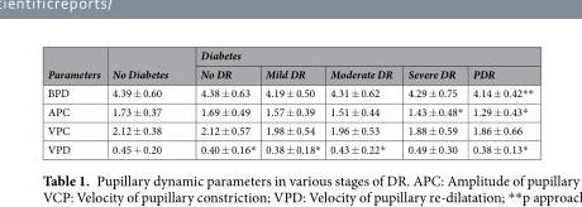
<table><thead><tr><td rowspan="2">Parameters</td><td rowspan="2">No Diabetes</td><td colspan="5">Diabetes</td></tr><tr><td>No DR</td><td>Mild DR</td><td>Moderate DR</td><td>Severe DR</td><td>PDR</td></tr></thead><tbody><tr><td>BPD</td><td>4.39 ± 0.60</td><td>4.38 ± 0.63</td><td>4.19 ± 0.50</td><td>4.31 ± 0.62</td><td>4.29 ± 0.75</td><td>4.14 ± 0.42**</td></tr><tr><td>APC</td><td>1.73 ± 0.37</td><td>1.69 ± 0.49</td><td>1.57 ± 0.39</td><td>1.51 ± 0.44</td><td>1.43 ± 0.48*</td><td>1.29 ± 0.43*</td></tr><tr><td>VPC</td><td>2.12 ± 0.38</td><td>2.12 ± 0.57</td><td>1.98 ± 0.54</td><td>1.96 ± 0.53</td><td>1.88 ± 0.59</td><td>1.86 ± 0.66</td></tr><tr><td>VPD</td><td>0.45 + 0.20</td><td>0.40 ± 0.16*</td><td>0.38 ± 0.18*</td><td>0.43 ± 0.22*</td><td>0.49 ± 0.30</td><td>0.38 ± 0.13*</td></tr></tbody></table>